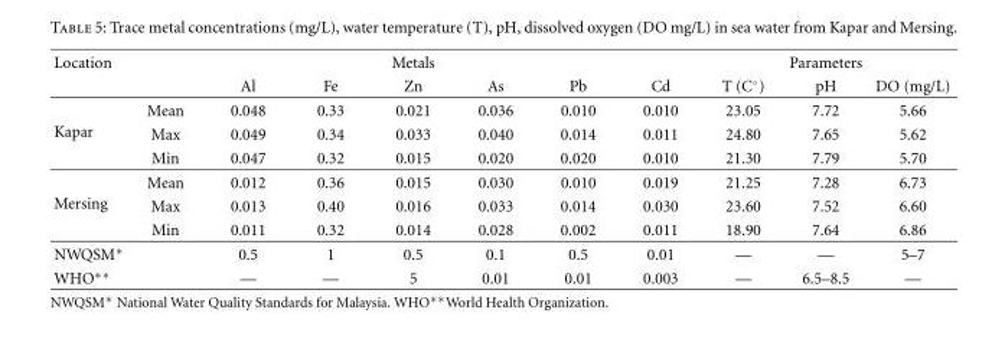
<table><thead><tr><td rowspan="2">Location</td><td rowspan="2"></td><td rowspan="2">Al</td><td rowspan="2">Fe</td><td rowspan="2">Metals Zn</td><td rowspan="2">As</td><td rowspan="2">Pb</td><td rowspan="2">Cd</td><td rowspan="2">T (C◦)</td><td rowspan="2">Parameters pH</td><td rowspan="2">DO (mg/L)</td></tr><tr></tr></thead><tbody><tr><td rowspan="3">Kapar</td><td>Mean</td><td>0.048</td><td>0.33</td><td>0.021</td><td>0.036</td><td>0.010</td><td>0.010</td><td>23.05</td><td>7.72</td><td>5.66</td></tr><tr><td>Max</td><td>0.049</td><td>0.34</td><td>0.033</td><td>0.040</td><td>0.014</td><td>0.011</td><td>24.80</td><td>7.65</td><td>5.62</td></tr><tr><td>Min</td><td>0.047</td><td>0.32</td><td>0.015</td><td>0.020</td><td>0.020</td><td>0.010</td><td>21.30</td><td>7.79</td><td>5.70</td></tr><tr><td rowspan="3">Mersing</td><td>Mean</td><td>0.012</td><td>0.36</td><td>0.015</td><td>0.030</td><td>0.010</td><td>0.019</td><td>21.25</td><td>7.28</td><td>6.73</td></tr><tr><td>Max</td><td>0.013</td><td>0.40</td><td>0.016</td><td>0.033</td><td>0.014</td><td>0.030</td><td>23.60</td><td>7.52</td><td>6.60</td></tr><tr><td>Min</td><td>0.011</td><td>0.32</td><td>0.014</td><td>0.028</td><td>0.002</td><td>0.011</td><td>18.90</td><td>7.64</td><td>6.86</td></tr><tr><td>NWQSM∗</td><td></td><td>0.5</td><td>1</td><td>0.5</td><td>0.1</td><td>0.5</td><td>0.01</td><td>—</td><td>—</td><td>5–7</td></tr><tr><td>WHO∗∗</td><td></td><td>—</td><td>—</td><td>5</td><td>0.01</td><td>0.01</td><td>0.003</td><td>—</td><td>6.5–8.5</td><td>—</td></tr></tbody></table>